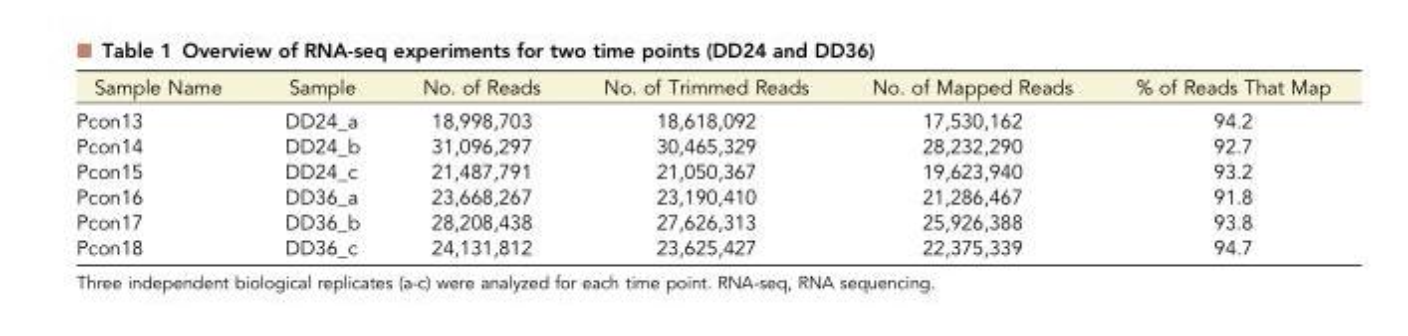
<table><thead><tr><td>Sample Name</td><td>Sample</td><td>No. of Reads</td><td>No. of Trimmed Reads</td><td>No. of Mapped Reads</td><td>% of Reads That Map</td></tr></thead><tbody><tr><td>Pcon13</td><td>DD24_a</td><td>18,998,703</td><td>18,618,092</td><td>17,530,162</td><td>94.2</td></tr><tr><td>Pcon14</td><td>DD24_b</td><td>31,096,297</td><td>30,465,329</td><td>28,232,290</td><td>92.7</td></tr><tr><td>Pcon15</td><td>DD24_c</td><td>21,487,791</td><td>21,050,367</td><td>19,623,940</td><td>93.2</td></tr><tr><td>Pcon16</td><td>DD36_a</td><td>23,668,267</td><td>23,190,410</td><td>21,286,467</td><td>91.8</td></tr><tr><td>Pcon17</td><td>DD36_b</td><td>28,208,438</td><td>27,626,313</td><td>25,926,388</td><td>93.8</td></tr><tr><td>Pcon18</td><td>DD36_c</td><td>24,131,812</td><td>23,625,427</td><td>22,375,339</td><td>94.7</td></tr></tbody></table>